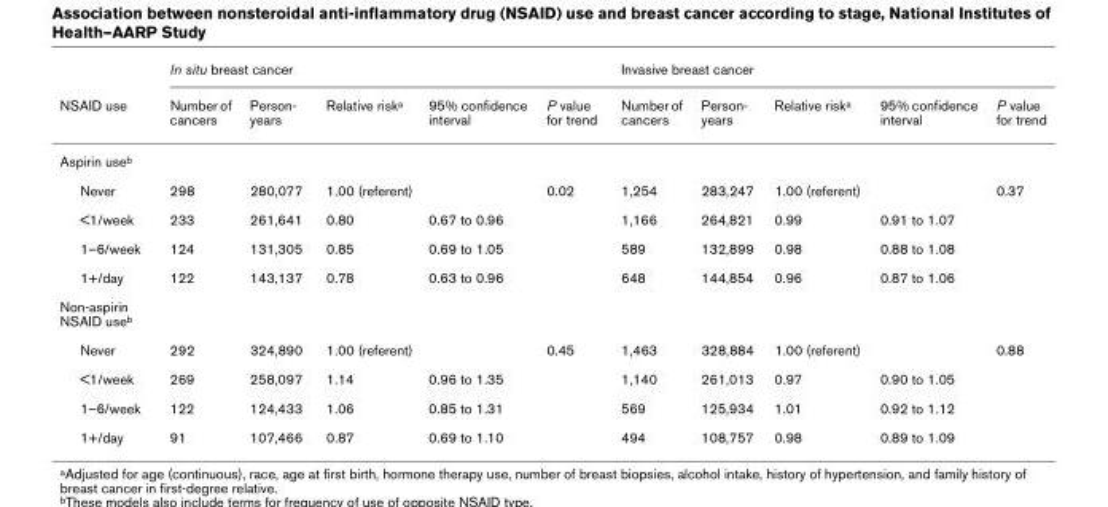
<table><thead><tr><td rowspan="2">NSAID use</td><td colspan="5">In situ breast cancer</td><td colspan="5">Invasive breast cancer</td></tr><tr><td>Number of cancers</td><td>Person- years</td><td>Relative risk<sup>a</sup></td><td>95% confidence interval</td><td>P value for trend</td><td>Number of cancers</td><td>Person- years</td><td>Relative risk<sup>a</sup></td><td>95% confidence interval</td><td>P value for trend</td></tr></thead><tbody><tr><td colspan="11">Aspirin use<sup>b</sup></td></tr><tr><td>Never</td><td>298</td><td>280,077</td><td>1.00 (referent)</td><td></td><td>0.02</td><td>1,254</td><td>283,247</td><td>1.00 (referent)</td><td></td><td>0.37</td></tr><tr><td>&lt;1/week</td><td>233</td><td>261,641</td><td>0.80</td><td>0.67 to 0.96</td><td></td><td>1,166</td><td>264,821</td><td>0.99</td><td>0.91 to 1.07</td><td></td></tr><tr><td>1–6/week</td><td>124</td><td>131,305</td><td>0.85</td><td>0.69 to 1.05</td><td></td><td>589</td><td>132,899</td><td>0.98</td><td>0.88 to 1.08</td><td></td></tr><tr><td>1+/day</td><td>122</td><td>143,137</td><td>0.78</td><td>0.63 to 0.96</td><td></td><td>648</td><td>144,854</td><td>0.96</td><td>0.87 to 1.06</td><td></td></tr><tr><td colspan="11">Non-aspirin NSAID use<sup>b</sup></td></tr><tr><td>Never</td><td>292</td><td>324,890</td><td>1.00 (referent)</td><td></td><td>0.45</td><td>1,463</td><td>328,884</td><td>1.00 (referent)</td><td></td><td>0.88</td></tr><tr><td>&lt;1/week</td><td>269</td><td>258,097</td><td>1.14</td><td>0.96 to 1.35</td><td></td><td>1,140</td><td>261,013</td><td>0.97</td><td>0.90 to 1.05</td><td></td></tr><tr><td>1–6/week</td><td>122</td><td>124,433</td><td>1.06</td><td>0.85 to 1.31</td><td></td><td>569</td><td>125,934</td><td>1.01</td><td>0.92 to 1.12</td><td></td></tr><tr><td>1+/day</td><td>91</td><td>107,466</td><td>0.87</td><td>0.69 to 1.10</td><td></td><td>494</td><td>108,757</td><td>0.98</td><td>0.89 to 1.09</td><td></td></tr></tbody></table>